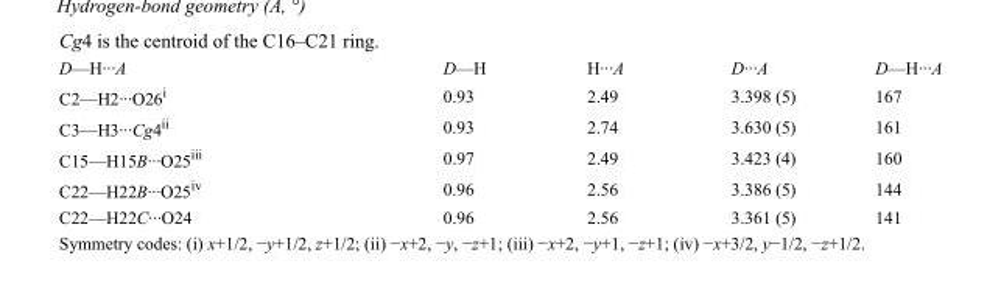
<table><tbody><tr><td>D—H···A</td><td>D—H</td><td>H···A</td><td>D···A</td><td>D—H···A</td></tr><tr><td>C2—H2···O26<sup>i</sup></td><td>0.93</td><td>2.49</td><td>3.398 (5)</td><td>167</td></tr><tr><td>C3—H3···Cg4<sup>ii</sup></td><td>0.93</td><td>2.74</td><td>3.630 (5)</td><td>161</td></tr><tr><td>C15—H15B···O25<sup>iii</sup></td><td>0.97</td><td>2.49</td><td>3.423 (4)</td><td>160</td></tr><tr><td>C22—H22B···O25<sup>iv</sup></td><td>0.96</td><td>2.56</td><td>3.386 (5)</td><td>144</td></tr><tr><td>C22—H22C···O24</td><td>0.96</td><td>2.56</td><td>3.361 (5)</td><td>141</td></tr></tbody></table>